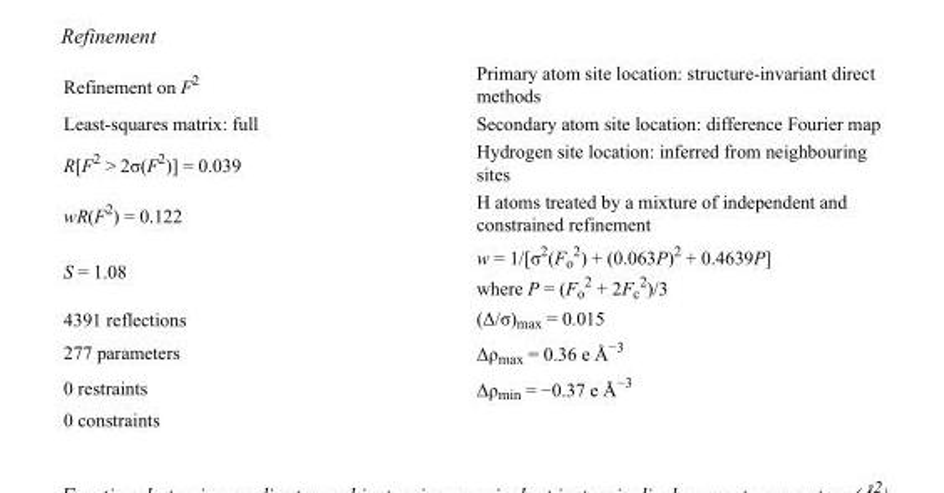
<table><tbody><tr><td>Refinement on F<sup>2</sup></td><td>Primary atom site location: structure-invariant direct methods</td></tr><tr><td>Least-squares matrix: full</td><td>Secondary atom site location: difference Fourier map</td></tr><tr><td>R[F<sup>2</sup> &gt; 2σ(F<sup>2</sup>)] = 0.039</td><td>Hydrogen site location: inferred from neighbouring sites</td></tr><tr><td>wR(F<sup>2</sup>) = 0.122</td><td>H atoms treated by a mixture of independent and constrained refinement</td></tr><tr><td>S = 1.08</td><td>w = 1/[σ<sup>2</sup>(F<sub>o</sub> <sup>2</sup>) + (0.063P)<sup>2</sup> + 0.4639P] where P = (F<sub>o</sub> <sup>2</sup> + 2F<sub>c</sub> <sup>2</sup>)/3</td></tr><tr><td>4391 reflections</td><td>(Δ/σ)<sub>max</sub> = 0.015</td></tr><tr><td>277 parameters</td><td>Δρ<sub>max</sub> = 0.36 e Å<sup>−3</sup></td></tr><tr><td>0 restraints</td><td>Δρ<sub>min</sub> = −0.37 e Å<sup>−3</sup></td></tr><tr><td>0 constraints</td><td></td></tr></tbody></table>